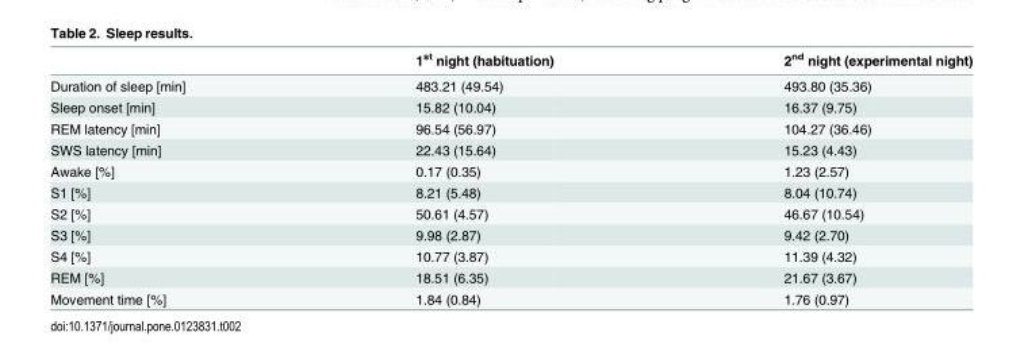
<table><thead><tr><td></td><td>1<sup>st</sup> night (habituation)</td><td>2<sup>nd</sup> night (experimental night)</td></tr></thead><tbody><tr><td>Duration of sleep [min]</td><td>483.21 (49.54)</td><td>493.80 (35.36)</td></tr><tr><td>Sleep onset [min]</td><td>15.82 (10.04)</td><td>16.37 (9.75)</td></tr><tr><td>REM latency [min]</td><td>96.54 (56.97)</td><td>104.27 (36.46)</td></tr><tr><td>SWS latency [min]</td><td>22.43 (15.64)</td><td>15.23 (4.43)</td></tr><tr><td>Awake [%]</td><td>0.17 (0.35)</td><td>1.23 (2.57)</td></tr><tr><td>S1 [%]</td><td>8.21 (5.48)</td><td>8.04 (10.74)</td></tr><tr><td>S2 [%]</td><td>50.61 (4.57)</td><td>46.67 (10.54)</td></tr><tr><td>S3 [%]</td><td>9.98 (2.87)</td><td>9.42 (2.70)</td></tr><tr><td>S4 [%]</td><td>10.77 (3.87)</td><td>11.39 (4.32)</td></tr><tr><td>REM [%]</td><td>18.51 (6.35)</td><td>21.67 (3.67)</td></tr><tr><td>Movement time [%]</td><td>1.84 (0.84)</td><td>1.76 (0.97)</td></tr></tbody></table>